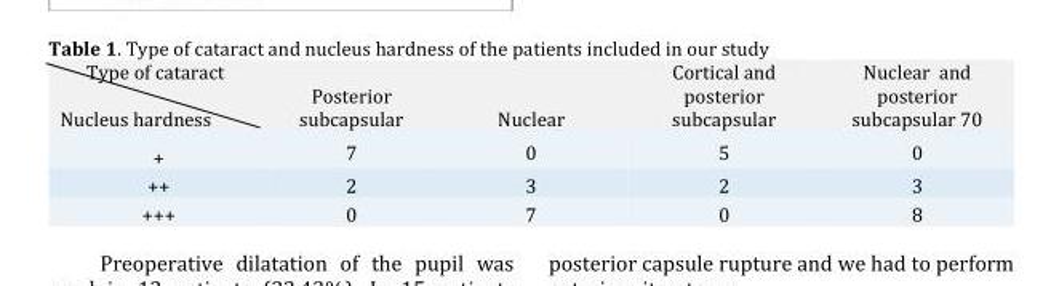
<table><tbody><tr><td>Type of cataract Nucleus hardness</td><td>Posterior subcapsular</td><td>Nuclear</td><td>Cortical and posterior subcapsular</td><td>Nuclear and posterior subcapsular 70</td></tr><tr><td>+</td><td>7</td><td>0</td><td>5</td><td>0</td></tr><tr><td>++</td><td>2</td><td>3</td><td>2</td><td>3</td></tr><tr><td>+++</td><td>0</td><td>7</td><td>0</td><td>8</td></tr></tbody></table>